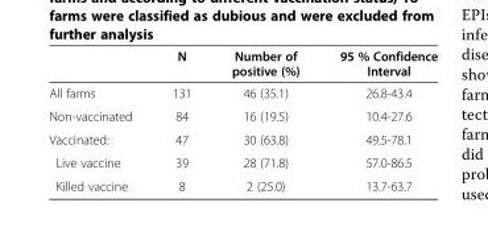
<table><thead><tr><td></td><td>N</td><td>Number of positive (%)</td><td>95 % Confidence Interval</td></tr></thead><tbody><tr><td>All farms</td><td>131</td><td>46 (35.1)</td><td>26.8-43.4</td></tr><tr><td>Non-vaccinated</td><td>84</td><td>16 (19.5)</td><td>10.4-27.6</td></tr><tr><td>Vaccinated:</td><td>47</td><td>30 (63.8)</td><td>49.5-78.1</td></tr><tr><td>Live vaccine</td><td>39</td><td>28 (71.8)</td><td>57.0-86.5</td></tr><tr><td>Killed vaccine</td><td>8</td><td>2 (25.0)</td><td>13.7-63.7</td></tr></tbody></table>